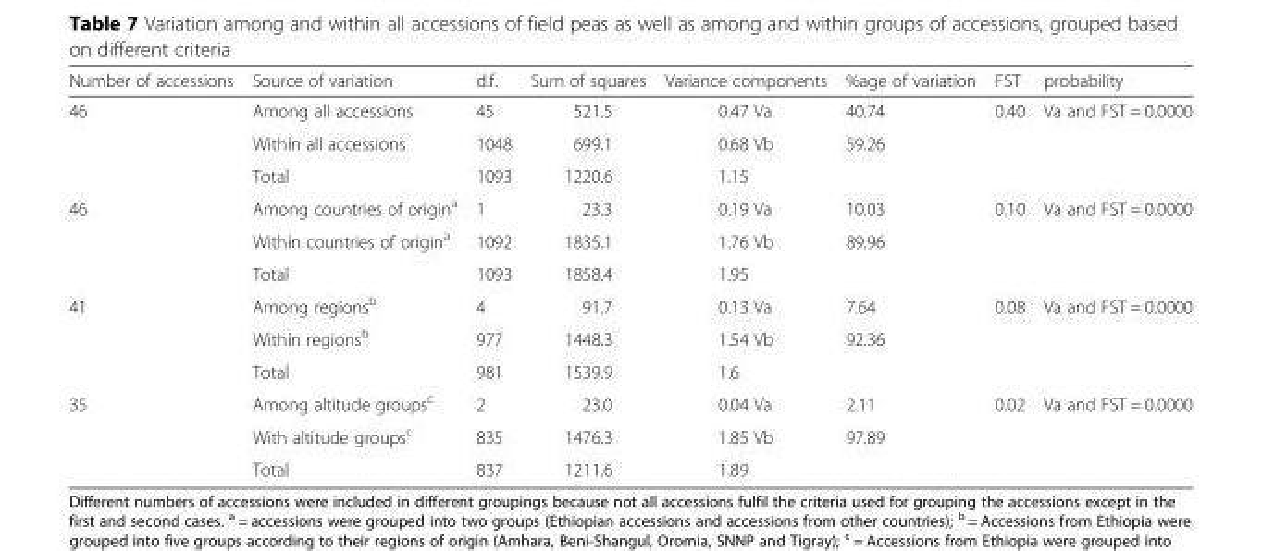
<table><thead><tr><td>Number of accessions</td><td>Source of variation</td><td>d.f.</td><td>Sum of squares</td><td>Variance components</td><td>%age of variation</td><td>FST</td><td>probability</td></tr></thead><tbody><tr><td rowspan="3">46</td><td>Among all accessions</td><td>45</td><td>521.5</td><td>0.47 Va</td><td>40.74</td><td>0.40</td><td>Va and FST = 0.0000</td></tr><tr><td>Within all accessions</td><td>1048</td><td>699.1</td><td>0.68 Vb</td><td>59.26</td><td></td><td></td></tr><tr><td>Total</td><td>1093</td><td>1220.6</td><td>1.15</td><td></td><td></td><td></td></tr><tr><td rowspan="3">46</td><td>Among countries of origin<sup>a</sup></td><td>1</td><td>23.3</td><td>0.19 Va</td><td>10.03</td><td>0.10</td><td>Va and FST = 0.0000</td></tr><tr><td>Within countries of origin<sup>a</sup></td><td>1092</td><td>1835.1</td><td>1.76 Vb</td><td>89.96</td><td></td><td></td></tr><tr><td>Total</td><td>1093</td><td>1858.4</td><td>1.95</td><td></td><td></td><td></td></tr><tr><td rowspan="3">41</td><td>Among regions<sup>b</sup></td><td>4</td><td>91.7</td><td>0.13 Va</td><td>7.64</td><td>0.08</td><td>Va and FST = 0.0000</td></tr><tr><td>Within regions<sup>b</sup></td><td>977</td><td>1448.3</td><td>1.54 Vb</td><td>92.36</td><td></td><td></td></tr><tr><td>Total</td><td>981</td><td>1539.9</td><td>1.6</td><td></td><td></td><td></td></tr><tr><td rowspan="3">35</td><td>Among altitude groups<sup>c</sup></td><td>2</td><td>23.0</td><td>0.04 Va</td><td>2.11</td><td>0.02</td><td>Va and FST = 0.0000</td></tr><tr><td>With altitude groups<sup>c</sup></td><td>835</td><td>1476.3</td><td>1.85 Vb</td><td>97.89</td><td></td><td></td></tr><tr><td>Total</td><td>837</td><td>1211.6</td><td>1.89</td><td></td><td></td><td></td></tr></tbody></table>